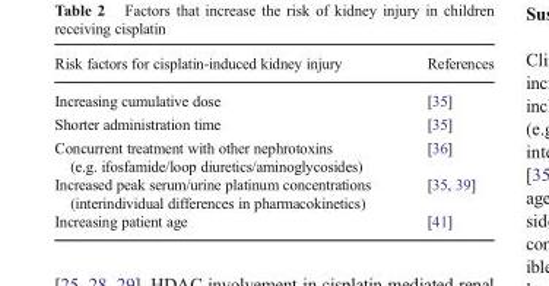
<table><thead><tr><td>Risk factors for cisplatin-induced kidney injury</td><td>References</td></tr></thead><tbody><tr><td>Increasing cumulative dose</td><td>[35]</td></tr><tr><td>Shorter administration time</td><td>[35]</td></tr><tr><td>Concurrent treatment with other nephrotoxins (e.g. ifosfamide/loop diuretics/aminoglycosides)</td><td>[36]</td></tr><tr><td>Increased peak serum/urine platinum concentrations (interindividual differences in pharmacokinetics)</td><td>[35, 39]</td></tr><tr><td>Increasing patient age</td><td>[41]</td></tr></tbody></table>